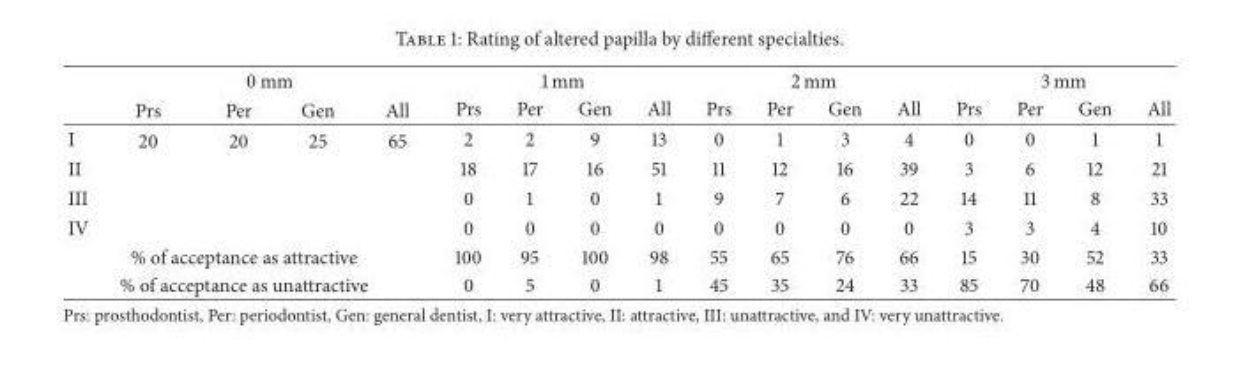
<table><thead><tr><td rowspan="2"></td><td colspan="4">0 mm</td><td colspan="4">1 mm</td><td colspan="4">2 mm</td><td colspan="4">3 mm</td></tr><tr><td>Prs</td><td>Per</td><td>Gen</td><td>All</td><td>Prs</td><td>Per</td><td>Gen</td><td>All</td><td>Prs</td><td>Per</td><td>Gen</td><td>All</td><td>Prs</td><td>Per</td><td>Gen</td><td>All</td></tr></thead><tbody><tr><td>I</td><td>20</td><td>20</td><td>25</td><td>65</td><td>2</td><td>2</td><td>9</td><td>13</td><td>0</td><td>1</td><td>3</td><td>4</td><td>0</td><td>0</td><td>1</td><td>1</td></tr><tr><td>II</td><td></td><td></td><td></td><td></td><td>18</td><td>17</td><td>16</td><td>51</td><td>11</td><td>12</td><td>16</td><td>39</td><td>3</td><td>6</td><td>12</td><td>21</td></tr><tr><td>III</td><td></td><td></td><td></td><td></td><td>0</td><td>1</td><td>0</td><td>1</td><td>9</td><td>7</td><td>6</td><td>22</td><td>14</td><td>11</td><td>8</td><td>33</td></tr><tr><td>IV</td><td></td><td></td><td></td><td></td><td>0</td><td>0</td><td>0</td><td>0</td><td>0</td><td>0</td><td>0</td><td>0</td><td>3</td><td>3</td><td>4</td><td>10</td></tr><tr><td colspan="5">% of acceptance as attractive</td><td>100</td><td>95</td><td>100</td><td>98</td><td>55</td><td>65</td><td>76</td><td>66</td><td>15</td><td>30</td><td>52</td><td>33</td></tr><tr><td colspan="5">% of acceptance as unattractive</td><td>0</td><td>5</td><td>0</td><td>1</td><td>45</td><td>35</td><td>24</td><td>33</td><td>85</td><td>70</td><td>48</td><td>66</td></tr></tbody></table>